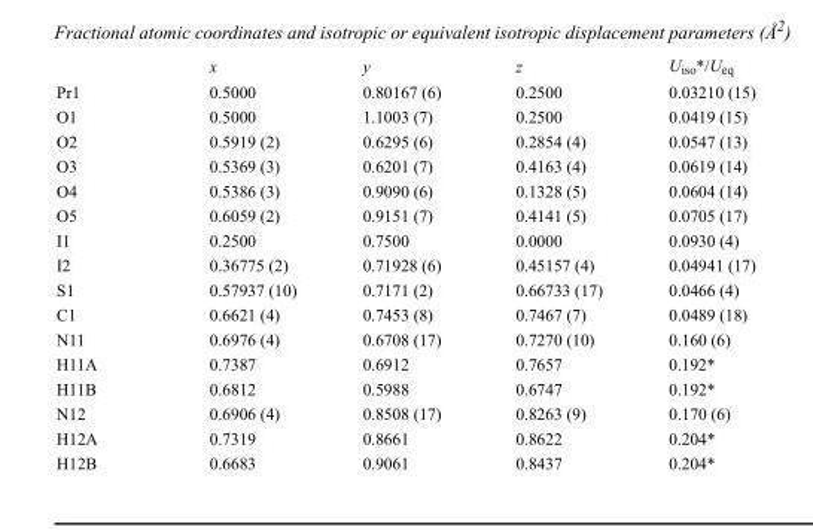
<table><thead><tr><td></td><td>x</td><td>y</td><td>z</td><td>U<sub>iso</sub>*/U<sub>eq</sub></td></tr></thead><tbody><tr><td>Pr1</td><td>0.5000</td><td>0.80167 (6)</td><td>0.2500</td><td>0.03210 (15)</td></tr><tr><td>O1</td><td>0.5000</td><td>1.1003 (7)</td><td>0.2500</td><td>0.0419 (15)</td></tr><tr><td>O2</td><td>0.5919 (2)</td><td>0.6295 (6)</td><td>0.2854 (4)</td><td>0.0547 (13)</td></tr><tr><td>O3</td><td>0.5369 (3)</td><td>0.6201 (7)</td><td>0.4163 (4)</td><td>0.0619 (14)</td></tr><tr><td>O4</td><td>0.5386 (3)</td><td>0.9090 (6)</td><td>0.1328 (5)</td><td>0.0604 (14)</td></tr><tr><td>O5</td><td>0.6059 (2)</td><td>0.9151 (7)</td><td>0.4141 (5)</td><td>0.0705 (17)</td></tr><tr><td>I1</td><td>0.2500</td><td>0.7500</td><td>0.0000</td><td>0.0930 (4)</td></tr><tr><td>I2</td><td>0.36775 (2)</td><td>0.71928 (6)</td><td>0.45157 (4)</td><td>0.04941 (17)</td></tr><tr><td>S1</td><td>0.57937 (10)</td><td>0.7171 (2)</td><td>0.66733 (17)</td><td>0.0466 (4)</td></tr><tr><td>C1</td><td>0.6621 (4)</td><td>0.7453 (8)</td><td>0.7467 (7)</td><td>0.0489 (18)</td></tr><tr><td>N11</td><td>0.6976 (4)</td><td>0.6708 (17)</td><td>0.7270 (10)</td><td>0.160 (6)</td></tr><tr><td>H11A</td><td>0.7387</td><td>0.6912</td><td>0.7657</td><td>0.192*</td></tr><tr><td>H11B</td><td>0.6812</td><td>0.5988</td><td>0.6747</td><td>0.192*</td></tr><tr><td>N12</td><td>0.6906 (4)</td><td>0.8508 (17)</td><td>0.8263 (9)</td><td>0.170 (6)</td></tr><tr><td>H12A</td><td>0.7319</td><td>0.8661</td><td>0.8622</td><td>0.204*</td></tr><tr><td>H12B</td><td>0.6683</td><td>0.9061</td><td>0.8437</td><td>0.204*</td></tr></tbody></table>